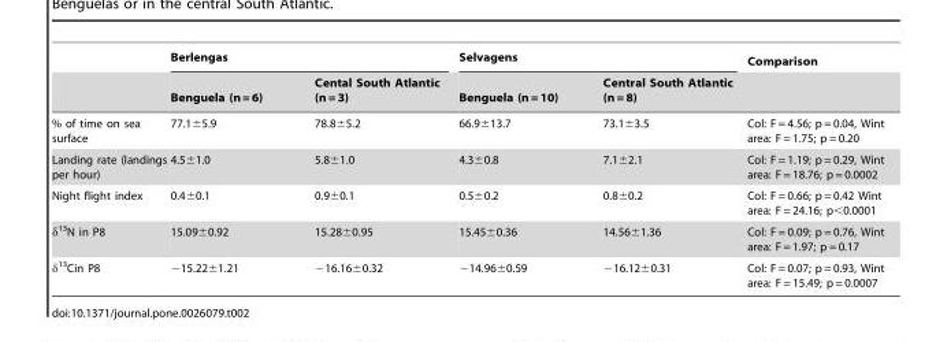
<table><thead><tr><td rowspan="2"></td><td colspan="2">Berlengas</td><td colspan="2">Selvagens</td><td rowspan="2">Comparison</td></tr><tr><td>Benguela (n = 6)</td><td>Cental South Atlantic (n = 3)</td><td>Benguela (n = 10)</td><td>Central South Atlantic (n = 8)</td></tr></thead><tbody><tr><td>% of time on sea surface</td><td>77.1±5.9</td><td>78.8±5.2</td><td>66.9±13.7</td><td>73.1±3.5</td><td>Col: F = 4.56; p = 0.04, Wint area: F = 1.75; p = 0.20</td></tr><tr><td>Landing rate (landings per hour)</td><td>4.5±1.0</td><td>5.8±1.0</td><td>4.3±0.8</td><td>7.1±2.1</td><td>Col: F = 1.19; p = 0.29, Wint area: F = 18.76; p = 0.0002</td></tr><tr><td>Night flight index</td><td>0.4±0.1</td><td>0.9±0.1</td><td>0.5±0.2</td><td>0.8±0.2</td><td>Col: F = 0.66; p = 0.42 Wint area: F = 24.16; p&lt;0.0001</td></tr><tr><td>δ<sup>13</sup>N in P8</td><td>15.09±0.92</td><td>15.28±0.95</td><td>15.45±0.36</td><td>14.56±1.36</td><td>Col: F = 0.09; p = 0.76, Wint area: F = 1.97; p = 0.17</td></tr><tr><td>δ<sup>13</sup>Cin P8</td><td>−15.22±1.21</td><td>−16.16±0.32</td><td>−14.96±0.59</td><td>−16.12±0.31</td><td>Col: F = 0.07; p = 0.93, Wint area: F = 15.49; p = 0.0007</td></tr></tbody></table>